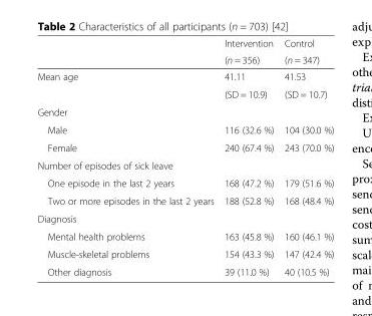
<table><thead><tr><td rowspan="2"></td><td rowspan="2">Intervention (n = 356)</td><td rowspan="2">Control (n = 347)</td></tr><tr></tr></thead><tbody><tr><td rowspan="2">Mean age</td><td>41.11</td><td>41.53</td></tr><tr><td>(SD = 10.9)</td><td>(SD = 10.7)</td></tr><tr><td colspan="3">Gender</td></tr><tr><td>Male</td><td>116 (32.6 %)</td><td>104 (30.0 %)</td></tr><tr><td>Female</td><td>240 (67.4 %)</td><td>243 (70.0 %)</td></tr><tr><td colspan="3">Number of episodes of sick leave</td></tr><tr><td>One episode in the last 2 years</td><td>168 (47.2 %)</td><td>179 (51.6 %)</td></tr><tr><td>Two or more episodes in the last 2 years</td><td>188 (52.8 %)</td><td>168 (48.4 %)</td></tr><tr><td colspan="3">Diagnosis</td></tr><tr><td>Mental health problems</td><td>163 (45.8 %)</td><td>160 (46.1 %)</td></tr><tr><td>Muscle-skeletal problems</td><td>154 (43.3 %)</td><td>147 (42.4 %)</td></tr><tr><td>Other diagnosis</td><td>39 (11.0 %)</td><td>40 (10.5 %)</td></tr></tbody></table>